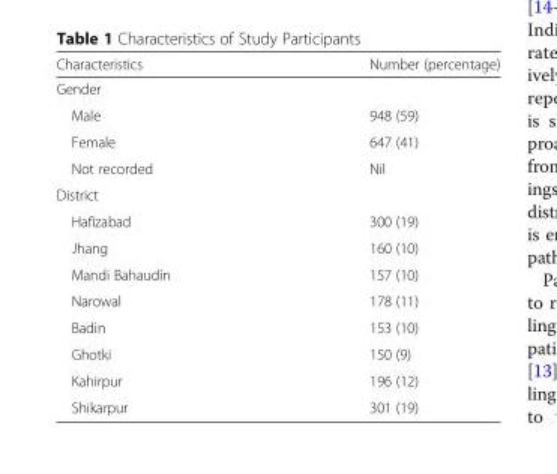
<table><thead><tr><td>Characteristics</td><td>Number (percentage)</td></tr></thead><tbody><tr><td colspan="2">Gender</td></tr><tr><td>Male</td><td>948 (59)</td></tr><tr><td>Female</td><td>647 (41)</td></tr><tr><td>Not recorded</td><td>Nil</td></tr><tr><td colspan="2">District</td></tr><tr><td>Hafizabad</td><td>300 (19)</td></tr><tr><td>Jhang</td><td>160 (10)</td></tr><tr><td>Mandi Bahaudin</td><td>157 (10)</td></tr><tr><td>Narowal</td><td>178 (11)</td></tr><tr><td>Badin</td><td>153 (10)</td></tr><tr><td>Ghotki</td><td>150 (9)</td></tr><tr><td>Kahirpur</td><td>196 (12)</td></tr><tr><td>Shikarpur</td><td>301 (19)</td></tr></tbody></table>